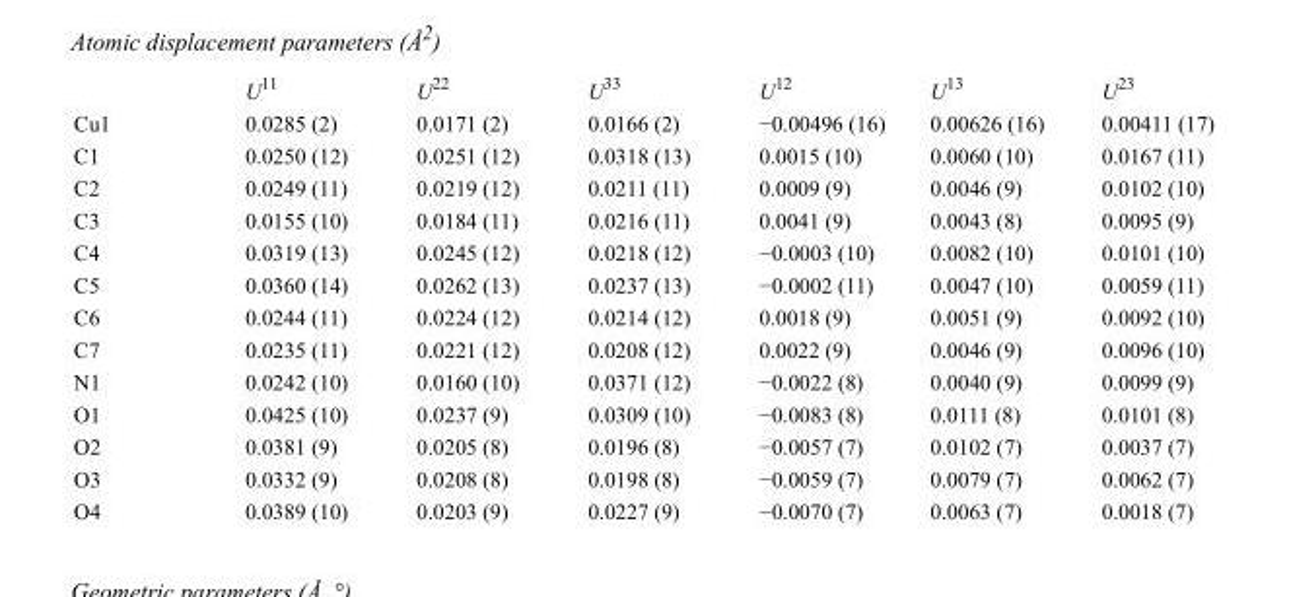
<table><thead><tr><td></td><td>U<sup>11</sup></td><td>U<sup>22</sup></td><td>U<sup>33</sup></td><td>U<sup>12</sup></td><td>U<sup>13</sup></td><td>U<sup>23</sup></td></tr></thead><tbody><tr><td>Cu1</td><td>0.0285 (2)</td><td>0.0171 (2)</td><td>0.0166 (2)</td><td>−0.00496 (16)</td><td>0.00626 (16)</td><td>0.00411 (17)</td></tr><tr><td>C1</td><td>0.0250 (12)</td><td>0.0251 (12)</td><td>0.0318 (13)</td><td>0.0015 (10)</td><td>0.0060 (10)</td><td>0.0167 (11)</td></tr><tr><td>C2</td><td>0.0249 (11)</td><td>0.0219 (12)</td><td>0.0211 (11)</td><td>0.0009 (9)</td><td>0.0046 (9)</td><td>0.0102 (10)</td></tr><tr><td>C3</td><td>0.0155 (10)</td><td>0.0184 (11)</td><td>0.0216 (11)</td><td>0.0041 (9)</td><td>0.0043 (8)</td><td>0.0095 (9)</td></tr><tr><td>C4</td><td>0.0319 (13)</td><td>0.0245 (12)</td><td>0.0218 (12)</td><td>−0.0003 (10)</td><td>0.0082 (10)</td><td>0.0101 (10)</td></tr><tr><td>C5</td><td>0.0360 (14)</td><td>0.0262 (13)</td><td>0.0237 (13)</td><td>−0.0002 (11)</td><td>0.0047 (10)</td><td>0.0059 (11)</td></tr><tr><td>C6</td><td>0.0244 (11)</td><td>0.0224 (12)</td><td>0.0214 (12)</td><td>0.0018 (9)</td><td>0.0051 (9)</td><td>0.0092 (10)</td></tr><tr><td>C7</td><td>0.0235 (11)</td><td>0.0221 (12)</td><td>0.0208 (12)</td><td>0.0022 (9)</td><td>0.0046 (9)</td><td>0.0096 (10)</td></tr><tr><td>N1</td><td>0.0242 (10)</td><td>0.0160 (10)</td><td>0.0371 (12)</td><td>−0.0022 (8)</td><td>0.0040 (9)</td><td>0.0099 (9)</td></tr><tr><td>O1</td><td>0.0425 (10)</td><td>0.0237 (9)</td><td>0.0309 (10)</td><td>−0.0083 (8)</td><td>0.0111 (8)</td><td>0.0101 (8)</td></tr><tr><td>O2</td><td>0.0381 (9)</td><td>0.0205 (8)</td><td>0.0196 (8)</td><td>−0.0057 (7)</td><td>0.0102 (7)</td><td>0.0037 (7)</td></tr><tr><td>O3</td><td>0.0332 (9)</td><td>0.0208 (8)</td><td>0.0198 (8)</td><td>−0.0059 (7)</td><td>0.0079 (7)</td><td>0.0062 (7)</td></tr><tr><td>O4</td><td>0.0389 (10)</td><td>0.0203 (9)</td><td>0.0227 (9)</td><td>−0.0070 (7)</td><td>0.0063 (7)</td><td>0.0018 (7)</td></tr></tbody></table>